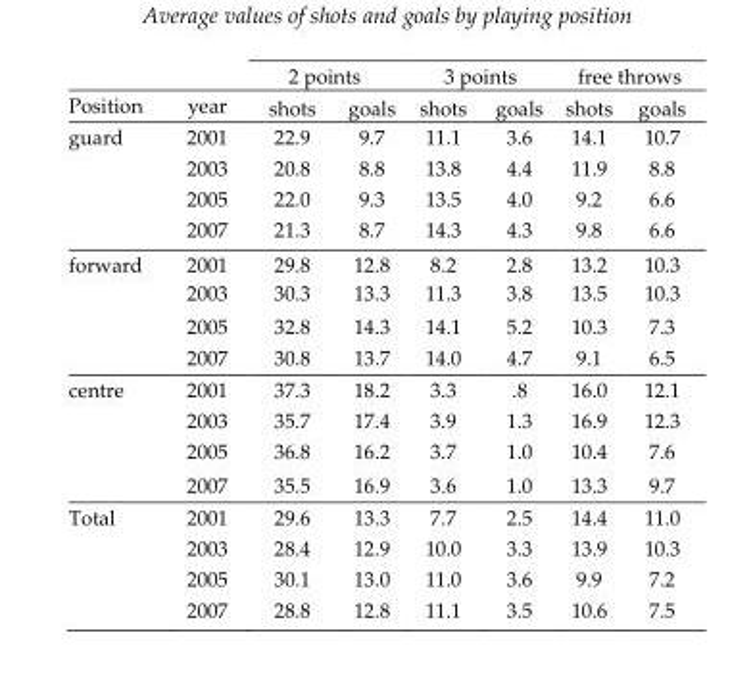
<table><thead><tr><td rowspan="2">Position</td><td rowspan="2">year</td><td colspan="2">2 points</td><td colspan="2">3 points</td><td colspan="2">free throws</td></tr><tr><td>shots</td><td>goals</td><td>shots</td><td>goals</td><td>shots</td><td>goals</td></tr></thead><tbody><tr><td rowspan="4">guard</td><td>2001</td><td>22.9</td><td>9.7</td><td>11.1</td><td>3.6</td><td>14.1</td><td>10.7</td></tr><tr><td>2003</td><td>20.8</td><td>8.8</td><td>13.8</td><td>4.4</td><td>11.9</td><td>8.8</td></tr><tr><td>2005</td><td>22.0</td><td>9.3</td><td>13.5</td><td>4.0</td><td>9.2</td><td>6.6</td></tr><tr><td>2007</td><td>21.3</td><td>8.7</td><td>14.3</td><td>4.3</td><td>9.8</td><td>6.6</td></tr><tr><td rowspan="4">forward</td><td>2001</td><td>29.8</td><td>12.8</td><td>8.2</td><td>2.8</td><td>13.2</td><td>10.3</td></tr><tr><td>2003</td><td>30.3</td><td>13.3</td><td>11.3</td><td>3.8</td><td>13.5</td><td>10.3</td></tr><tr><td>2005</td><td>32.8</td><td>14.3</td><td>14.1</td><td>5.2</td><td>10.3</td><td>7.3</td></tr><tr><td>2007</td><td>30.8</td><td>13.7</td><td>14.0</td><td>4.7</td><td>9.1</td><td>6.5</td></tr><tr><td rowspan="4">centre</td><td>2001</td><td>37.3</td><td>18.2</td><td>3.3</td><td>.8</td><td>16.0</td><td>12.1</td></tr><tr><td>2003</td><td>35.7</td><td>17.4</td><td>3.9</td><td>1.3</td><td>16.9</td><td>12.3</td></tr><tr><td>2005</td><td>36.8</td><td>16.2</td><td>3.7</td><td>1.0</td><td>10.4</td><td>7.6</td></tr><tr><td>2007</td><td>35.5</td><td>16.9</td><td>3.6</td><td>1.0</td><td>13.3</td><td>9.7</td></tr><tr><td rowspan="4">Total</td><td>2001</td><td>29.6</td><td>13.3</td><td>7.7</td><td>2.5</td><td>14.4</td><td>11.0</td></tr><tr><td>2003</td><td>28.4</td><td>12.9</td><td>10.0</td><td>3.3</td><td>13.9</td><td>10.3</td></tr><tr><td>2005</td><td>30.1</td><td>13.0</td><td>11.0</td><td>3.6</td><td>9.9</td><td>7.2</td></tr><tr><td>2007</td><td>28.8</td><td>12.8</td><td>11.1</td><td>3.5</td><td>10.6</td><td>7.5</td></tr></tbody></table>